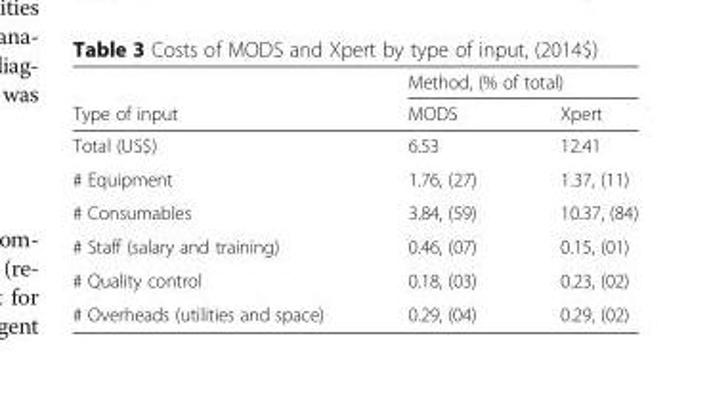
<table><thead><tr><td rowspan="2">Type of input</td><td colspan="2">Method, (% of total)</td></tr><tr><td>MODS</td><td>Xpert</td></tr></thead><tbody><tr><td>Total (US$)</td><td>6.53</td><td>12.41</td></tr><tr><td># Equipment</td><td>1.76, (27)</td><td>1.37, (11)</td></tr><tr><td># Consumables</td><td>3.84, (59)</td><td>10.37, (84)</td></tr><tr><td># Staff (salary and training)</td><td>0.46, (07)</td><td>0.15, (01)</td></tr><tr><td># Quality control</td><td>0.18, (03)</td><td>0.23, (02)</td></tr><tr><td># Overheads (utilities and space)</td><td>0.29, (04)</td><td>0.29, (02)</td></tr></tbody></table>